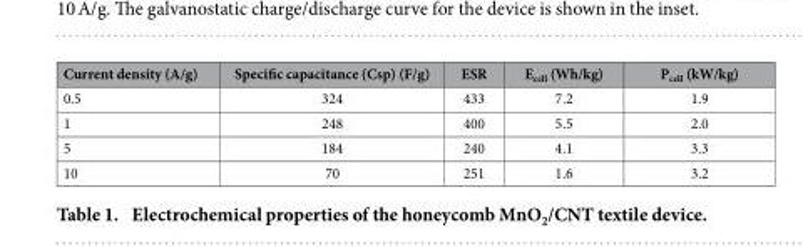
<table><thead><tr><td>Current density (A/g)</td><td>Specific capacitance (Csp) (F/g)</td><td>ESR</td><td>E<sub>cell</sub> (Wh/kg)</td><td>P<sub>cell</sub> (kW/kg)</td></tr></thead><tbody><tr><td>0.5</td><td>324</td><td>433</td><td>7.2</td><td>1.9</td></tr><tr><td>1</td><td>248</td><td>400</td><td>5.5</td><td>2.0</td></tr><tr><td>5</td><td>184</td><td>240</td><td>4.1</td><td>3.3</td></tr><tr><td>10</td><td>70</td><td>251</td><td>1.6</td><td>3.2</td></tr></tbody></table>